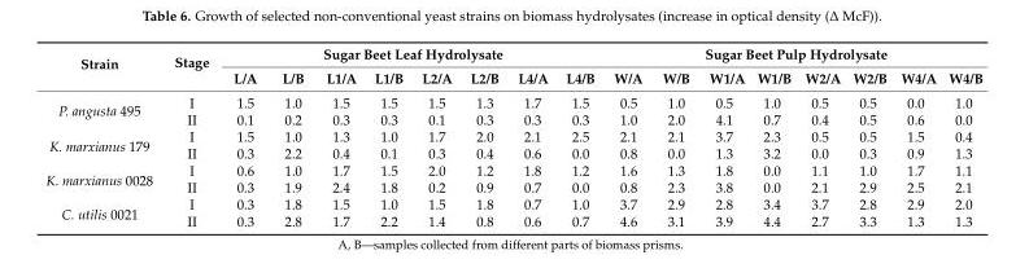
<table><thead><tr><td rowspan="2">Strain</td><td rowspan="2">Stage</td><td colspan="8">Sugar Beet Leaf Hydrolysate</td><td colspan="8">Sugar Beet Pulp Hydrolysate</td></tr><tr><td>L/A</td><td>L/B</td><td>L1/A</td><td>L1/B</td><td>L2/A</td><td>L2/B</td><td>L4/A</td><td>L4/B</td><td>W/A</td><td>W/B</td><td>W1/A</td><td>W1/B</td><td>W2/A</td><td>W2/B</td><td>W4/A</td><td>W4/B</td></tr></thead><tbody><tr><td rowspan="2">P. angusta 495</td><td>I</td><td>1.5</td><td>1.0</td><td>1.5</td><td>1.5</td><td>1.5</td><td>1.3</td><td>1.7</td><td>1.5</td><td>0.5</td><td>1.0</td><td>0.5</td><td>1.0</td><td>0.5</td><td>0.5</td><td>0.0</td><td>1.0</td></tr><tr><td>II</td><td>0.1</td><td>0.2</td><td>0.3</td><td>0.3</td><td>0.1</td><td>0.3</td><td>0.3</td><td>0.3</td><td>1.0</td><td>2.0</td><td>4.1</td><td>0.7</td><td>0.4</td><td>0.5</td><td>0.6</td><td>0.0</td></tr><tr><td rowspan="2">K. marxianus 179</td><td>I</td><td>1.5</td><td>1.0</td><td>1.3</td><td>1.0</td><td>1.7</td><td>2.0</td><td>2.1</td><td>2.5</td><td>2.1</td><td>2.1</td><td>3.7</td><td>2.3</td><td>0.5</td><td>0.5</td><td>1.5</td><td>0.4</td></tr><tr><td>II</td><td>0.3</td><td>2.2</td><td>0.4</td><td>0.1</td><td>0.3</td><td>0.4</td><td>0.6</td><td>0.0</td><td>0.8</td><td>0.0</td><td>1.3</td><td>3.2</td><td>0.0</td><td>0.3</td><td>0.9</td><td>1.3</td></tr><tr><td rowspan="2">K. marxianus 0028</td><td>I</td><td>0.6</td><td>1.0</td><td>1.7</td><td>1.5</td><td>2.0</td><td>1.2</td><td>1.8</td><td>1.2</td><td>1.6</td><td>1.3</td><td>1.8</td><td>0.0</td><td>1.1</td><td>1.0</td><td>1.7</td><td>1.1</td></tr><tr><td>II</td><td>0.3</td><td>1.9</td><td>2.4</td><td>1.8</td><td>0.2</td><td>0.9</td><td>0.7</td><td>0.0</td><td>0.8</td><td>2.3</td><td>3.8</td><td>0.0</td><td>2.1</td><td>2.9</td><td>2.5</td><td>2.1</td></tr><tr><td rowspan="2">C. utilis 0021</td><td>I</td><td>0.3</td><td>1.8</td><td>1.5</td><td>1.0</td><td>1.5</td><td>1.8</td><td>0.7</td><td>1.0</td><td>3.7</td><td>2.9</td><td>2.8</td><td>3.4</td><td>3.7</td><td>2.8</td><td>2.9</td><td>2.0</td></tr><tr><td>II</td><td>0.3</td><td>2.8</td><td>1.7</td><td>2.2</td><td>1.4</td><td>0.8</td><td>0.6</td><td>0.7</td><td>4.6</td><td>3.1</td><td>3.9</td><td>4.4</td><td>2.7</td><td>3.3</td><td>1.3</td><td>1.3</td></tr></tbody></table>